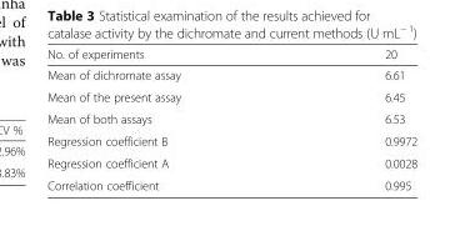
<table><thead><tr><td>No. of experiments</td><td>20</td></tr></thead><tbody><tr><td>Mean of dichromate assay</td><td>6.61</td></tr><tr><td>Mean of the present assay</td><td>6.45</td></tr><tr><td>Mean of both assays</td><td>6.53</td></tr><tr><td>Regression coefficient B</td><td>0.9972</td></tr><tr><td>Regression coefficient A</td><td>0.0028</td></tr><tr><td>Correlation coefficient</td><td>0.995</td></tr></tbody></table>